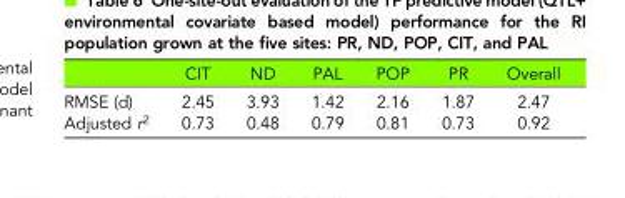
<table><thead><tr><td></td><td>CIT</td><td>ND</td><td>PAL</td><td>POP</td><td>PR</td><td>Overall</td></tr></thead><tbody><tr><td>RMSE (d)</td><td>2.45</td><td>3.93</td><td>1.42</td><td>2.16</td><td>1.87</td><td>2.47</td></tr><tr><td>Adjusted r<sup>2</sup></td><td>0.73</td><td>0.48</td><td>0.79</td><td>0.81</td><td>0.73</td><td>0.92</td></tr></tbody></table>